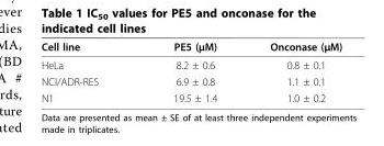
<table><thead><tr><td>Cell line</td><td>PE5 (μM)</td><td>Onconase (μM)</td></tr></thead><tbody><tr><td>HeLa</td><td>8.2 ± 0.6</td><td>0.8 ± 0.1</td></tr><tr><td>NCI/ADR-RES</td><td>6.9 ± 0.8</td><td>1.1 ± 0.1</td></tr><tr><td>N1</td><td>19.5 ± 1.4</td><td>1.0 ± 0.2</td></tr></tbody></table>